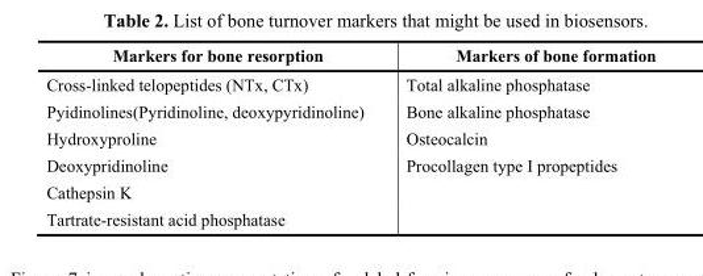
<table><thead><tr><td>Markers for bone resorption</td><td>Markers of bone formation</td></tr></thead><tbody><tr><td>Cross-linked telopeptides (NTx, CTx)</td><td>Total alkaline phosphatase</td></tr><tr><td>Pyidinolines(Pyridinoline, deoxypyridinoline)</td><td>Bone alkaline phosphatase</td></tr><tr><td>Hydroxyproline</td><td>Osteocalcin</td></tr><tr><td>Deoxypridinoline</td><td>Procollagen type I propeptides</td></tr><tr><td colspan="2">Cathepsin K</td></tr><tr><td>Tartrate-resistant acid phosphatase</td><td></td></tr></tbody></table>